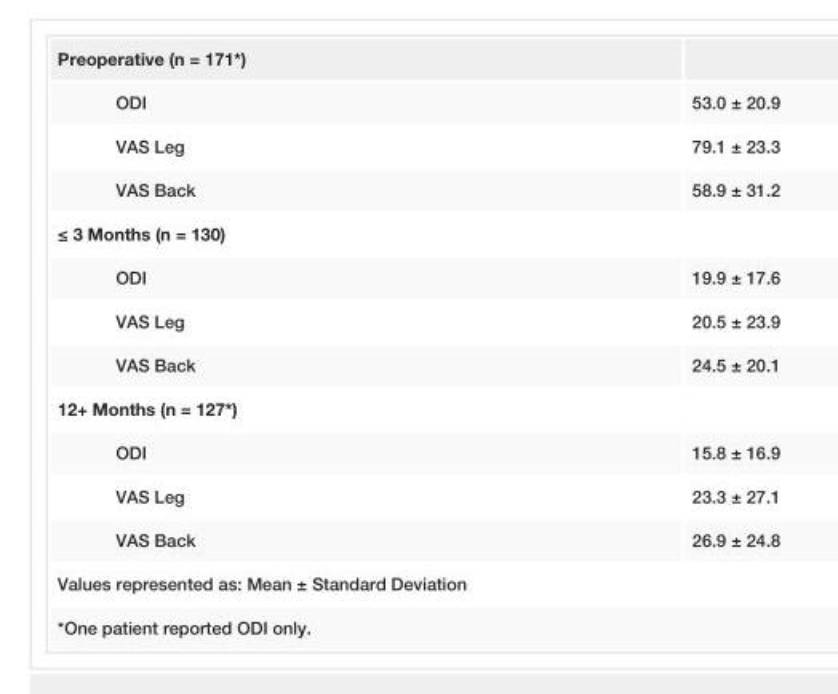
<table><tbody><tr><td colspan="2">Preoperative (n = 171*)</td></tr><tr><td>ODI</td><td>53.0 ± 20.9</td></tr><tr><td>VAS Leg</td><td>79.1 ± 23.3</td></tr><tr><td>VAS Back</td><td>58.9 ± 31.2</td></tr><tr><td colspan="2">≤ 3 Months (n = 130)</td></tr><tr><td>ODI</td><td>19.9 ± 17.6</td></tr><tr><td>VAS Leg</td><td>20.5 ± 23.9</td></tr><tr><td>VAS Back</td><td>24.5 ± 20.1</td></tr><tr><td colspan="2">12+ Months (n = 127*)</td></tr><tr><td>ODI</td><td>15.8 ± 16.9</td></tr><tr><td>VAS Leg</td><td>23.3 ± 27.1</td></tr><tr><td>VAS Back</td><td>26.9 ± 24.8</td></tr><tr><td colspan="2">Values represented as: Mean ± Standard Deviation</td></tr><tr><td colspan="2">*One patient reported ODI only.</td></tr></tbody></table>